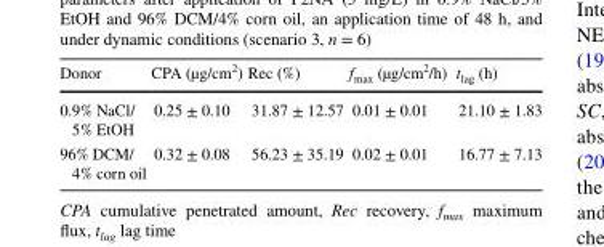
<table><thead><tr><td>Donor</td><td>CPA (µg/cm<sup>2</sup>)</td><td>Rec (%)</td><td>f<sub>max</sub> (µg/cm<sup>2</sup>/h)</td><td>t<sub>lag</sub> (h)</td></tr></thead><tbody><tr><td>0.9% NaCl/ 5% EtOH</td><td>0.25 ± 0.10</td><td>31.87 ± 12.57</td><td>0.01 ± 0.01</td><td>21.10 ± 1.83</td></tr><tr><td>96% DCM/ 4% corn oil</td><td>0.32 ± 0.08</td><td>56.23 ± 35.19</td><td>0.02 ± 0.01</td><td>16.77 ± 7.13</td></tr></tbody></table>